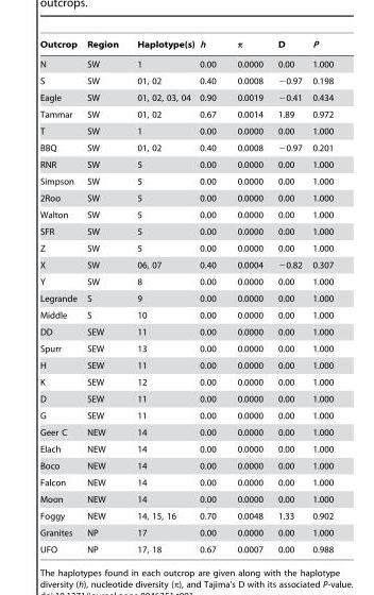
<table><thead><tr><td>Outcrop</td><td>Region</td><td>Haplotype(s)</td><td>h</td><td>π</td><td>D</td><td>P</td></tr></thead><tbody><tr><td>N</td><td>SW</td><td>1</td><td>0.00</td><td>0.0000</td><td>0.00</td><td>1.000</td></tr><tr><td>S</td><td>SW</td><td>01, 02</td><td>0.40</td><td>0.0008</td><td>−0.97</td><td>0.198</td></tr><tr><td>Eagle</td><td>SW</td><td>01, 02, 03, 04</td><td>0.90</td><td>0.0019</td><td>−0.41</td><td>0.434</td></tr><tr><td>Tammar</td><td>SW</td><td>01, 02</td><td>0.67</td><td>0.0014</td><td>1.89</td><td>0.972</td></tr><tr><td>T</td><td>SW</td><td>1</td><td>0.00</td><td>0.0000</td><td>0.00</td><td>1.000</td></tr><tr><td>BBQ</td><td>SW</td><td>01, 02</td><td>0.40</td><td>0.0008</td><td>−0.97</td><td>0.201</td></tr><tr><td>RNR</td><td>SW</td><td>5</td><td>0.00</td><td>0.0000</td><td>0.00</td><td>1.000</td></tr><tr><td>Simpson</td><td>SW</td><td>5</td><td>0.00</td><td>0.0000</td><td>0.00</td><td>1.000</td></tr><tr><td>2Roo</td><td>SW</td><td>5</td><td>0.00</td><td>0.0000</td><td>0.00</td><td>1.000</td></tr><tr><td>Walton</td><td>SW</td><td>5</td><td>0.00</td><td>0.0000</td><td>0.00</td><td>1.000</td></tr><tr><td>SFR</td><td>SW</td><td>5</td><td>0.00</td><td>0.0000</td><td>0.00</td><td>1.000</td></tr><tr><td>Z</td><td>SW</td><td>5</td><td>0.00</td><td>0.0000</td><td>0.00</td><td>1.000</td></tr><tr><td>X</td><td>SW</td><td>06, 07</td><td>0.40</td><td>0.0004</td><td>−0.82</td><td>0.307</td></tr><tr><td>Y</td><td>SW</td><td>8</td><td>0.00</td><td>0.0000</td><td>0.00</td><td>1.000</td></tr><tr><td>Legrande</td><td>S</td><td>9</td><td>0.00</td><td>0.0000</td><td>0.00</td><td>1.000</td></tr><tr><td>Middle</td><td>S</td><td>10</td><td>0.00</td><td>0.0000</td><td>0.00</td><td>1.000</td></tr><tr><td>DD</td><td>SEW</td><td>11</td><td>0.00</td><td>0.0000</td><td>0.00</td><td>1.000</td></tr><tr><td>Spurr</td><td>SEW</td><td>13</td><td>0.00</td><td>0.0000</td><td>0.00</td><td>1.000</td></tr><tr><td>H</td><td>SEW</td><td>11</td><td>0.00</td><td>0.0000</td><td>0.00</td><td>1.000</td></tr><tr><td>K</td><td>SEW</td><td>12</td><td>0.00</td><td>0.0000</td><td>0.00</td><td>1.000</td></tr><tr><td>D</td><td>SEW</td><td>11</td><td>0.00</td><td>0.0000</td><td>0.00</td><td>1.000</td></tr><tr><td>G</td><td>SEW</td><td>11</td><td>0.00</td><td>0.0000</td><td>0.00</td><td>1.000</td></tr><tr><td>Geer C</td><td>NEW</td><td>14</td><td>0.00</td><td>0.0000</td><td>0.00</td><td>1.000</td></tr><tr><td>Elach</td><td>NEW</td><td>14</td><td>0.00</td><td>0.0000</td><td>0.00</td><td>1.000</td></tr><tr><td>Boco</td><td>NEW</td><td>14</td><td>0.00</td><td>0.0000</td><td>0.00</td><td>1.000</td></tr><tr><td>Falcon</td><td>NEW</td><td>14</td><td>0.00</td><td>0.0000</td><td>0.00</td><td>1.000</td></tr><tr><td>Moon</td><td>NEW</td><td>14</td><td>0.00</td><td>0.0000</td><td>0.00</td><td>1.000</td></tr><tr><td>Foggy</td><td>NEW</td><td>14, 15, 16</td><td>0.70</td><td>0.0048</td><td>1.33</td><td>0.902</td></tr><tr><td>Granites</td><td>NP</td><td>17</td><td>0.00</td><td>0.0000</td><td>0.00</td><td>1.000</td></tr><tr><td>UFO</td><td>NP</td><td>17, 18</td><td>0.67</td><td>0.0007</td><td>0.00</td><td>0.988</td></tr></tbody></table>